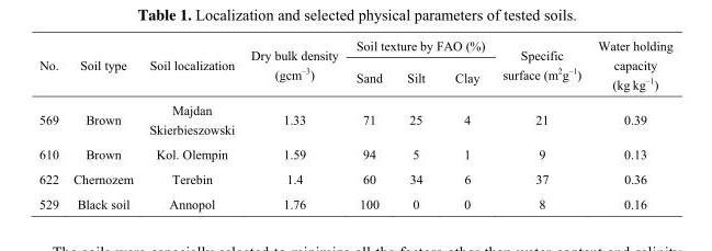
<table><thead><tr><td rowspan="2">No.</td><td rowspan="2">Soil type</td><td rowspan="2">Soil localization</td><td rowspan="2">Dry bulk density (gcm<sup>–3</sup>)</td><td colspan="3">Soil texture by FAO (%)</td><td rowspan="2">Specific surface (m<sup>2</sup>g<sup>–1</sup>)</td><td rowspan="2">Water holding capacity (kg kg<sup>–1</sup>)</td></tr><tr><td>Sand</td><td>Silt</td><td>Clay</td></tr></thead><tbody><tr><td>569</td><td>Brown</td><td>Majdan Skierbieszowski</td><td>1.33</td><td>71</td><td>25</td><td>4</td><td>21</td><td>0.39</td></tr><tr><td>610</td><td>Brown</td><td>Kol. Olempin</td><td>1.59</td><td>94</td><td>5</td><td>1</td><td>9</td><td>0.13</td></tr><tr><td>622</td><td>Chernozem</td><td>Terebin</td><td>1.4</td><td>60</td><td>34</td><td>6</td><td>37</td><td>0.36</td></tr><tr><td>529</td><td>Black soil</td><td>Annopol</td><td>1.76</td><td>100</td><td>0</td><td>0</td><td>8</td><td>0.16</td></tr></tbody></table>